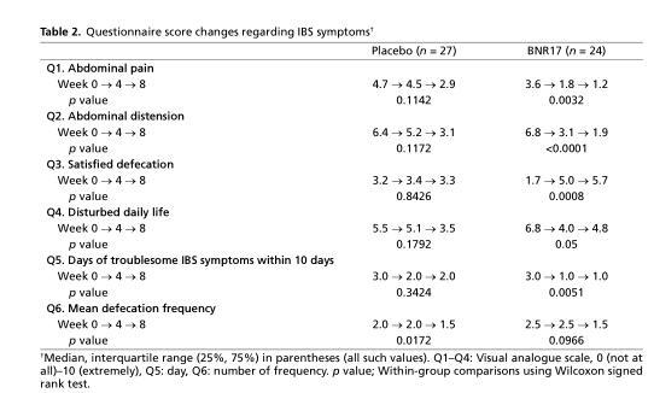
<table><thead><tr><td></td><td>Placebo (n = 27)</td><td>BNR17 (n = 24)</td></tr></thead><tbody><tr><td colspan="3">Q1. Abdominal pain</td></tr><tr><td>Week 0 → 4 → 8</td><td>4.7 → 4.5 → 2.9</td><td>3.6 → 1.8 → 1.2</td></tr><tr><td>p value</td><td>0.1142</td><td>0.0032</td></tr><tr><td colspan="3">Q2. Abdominal distension</td></tr><tr><td>Week 0 → 4 → 8</td><td>6.4 → 5.2 → 3.1</td><td>6.8 → 3.1 → 1.9</td></tr><tr><td>p value</td><td>0.1172</td><td>&lt;0.0001</td></tr><tr><td colspan="3">Q3. Satisfied defecation</td></tr><tr><td>Week 0 → 4 → 8</td><td>3.2 → 3.4 → 3.3</td><td>1.7 → 5.0 → 5.7</td></tr><tr><td>p value</td><td>0.8426</td><td>0.0008</td></tr><tr><td colspan="3">Q4. Disturbed daily life</td></tr><tr><td>Week 0 → 4 → 8</td><td>5.5 → 5.1 → 3.5</td><td>6.8 → 4.0 → 4.8</td></tr><tr><td>p value</td><td>0.1792</td><td>0.05</td></tr><tr><td colspan="3">Q5. Days of troublesome IBS symptoms within 10 days</td></tr><tr><td>Week 0 → 4 → 8</td><td>3.0 → 2.0 → 2.0</td><td>3.0 → 1.0 → 1.0</td></tr><tr><td>p value</td><td>0.3424</td><td>0.0051</td></tr><tr><td colspan="3">Q6. Mean defecation frequency</td></tr><tr><td>Week 0 → 4 → 8</td><td>2.0 → 2.0 → 1.5</td><td>2.5 → 2.5 → 1.5</td></tr><tr><td>p value</td><td>0.0172</td><td>0.0966</td></tr></tbody></table>